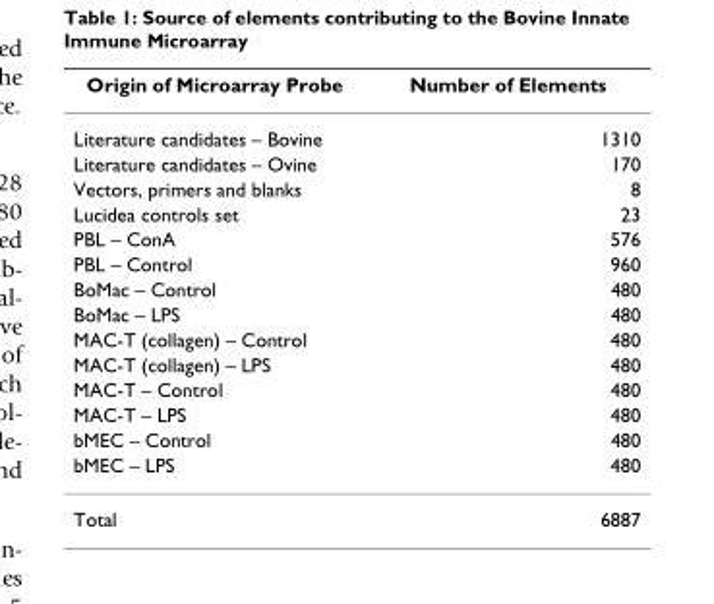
<table><thead><tr><td>Origin of Microarray Probe</td><td>Number of Elements</td></tr></thead><tbody><tr><td>Literature candidates – Bovine</td><td>1310</td></tr><tr><td>Literature candidates – Ovine</td><td>170</td></tr><tr><td>Vectors, primers and blanks</td><td>8</td></tr><tr><td>Lucidea controls set</td><td>23</td></tr><tr><td>PBL – ConA</td><td>576</td></tr><tr><td>PBL – Control</td><td>960</td></tr><tr><td>BoMac – Control</td><td>480</td></tr><tr><td>BoMac – LPS</td><td>480</td></tr><tr><td>MAC-T (collagen) – Control</td><td>480</td></tr><tr><td>MAC-T (collagen) – LPS</td><td>480</td></tr><tr><td>MAC-T – Control</td><td>480</td></tr><tr><td>MAC-T – LPS</td><td>480</td></tr><tr><td>bMEC – Control</td><td>480</td></tr><tr><td>bMEC – LPS</td><td>480</td></tr><tr><td>Total</td><td>6887</td></tr></tbody></table>